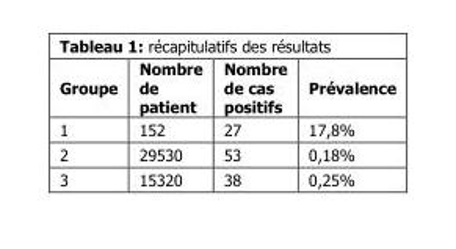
<table><thead><tr><td>Groupe</td><td>Nombre de patient</td><td>Nombre de cas positifs</td><td>Prévalence</td></tr></thead><tbody><tr><td>1</td><td>152</td><td>27</td><td>17,8%</td></tr><tr><td>2</td><td>29530</td><td>53</td><td>0,18%</td></tr><tr><td>3</td><td>15320</td><td>38</td><td>0,25%</td></tr></tbody></table>